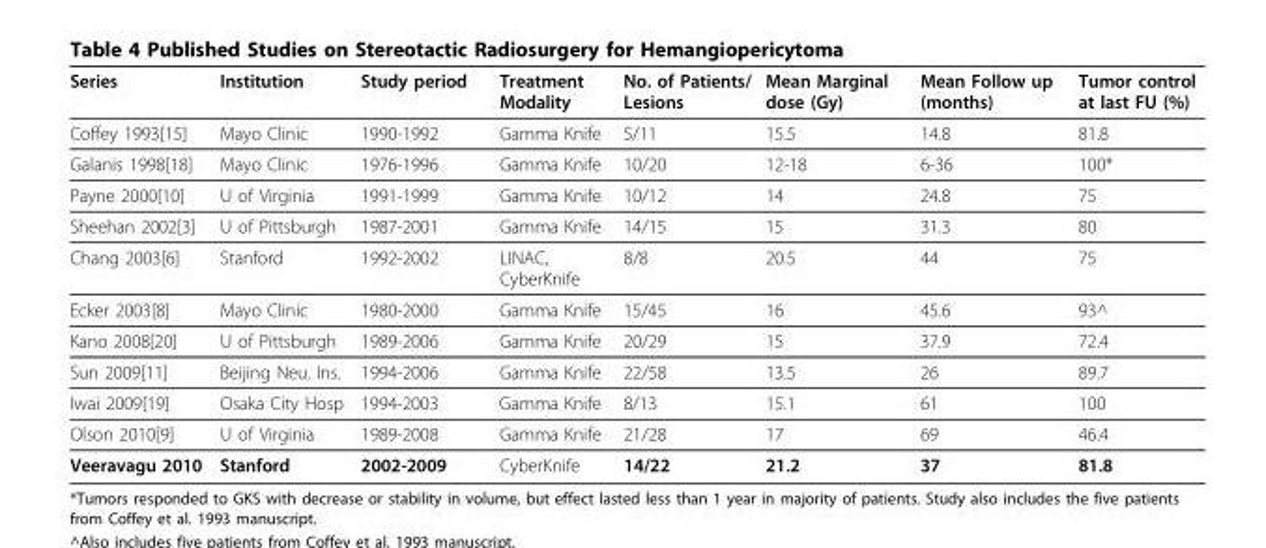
<table><thead><tr><td>Series</td><td>Institution</td><td>Study period</td><td>Treatment Modality</td><td>No. of Patients/ Lesions</td><td>Mean Marginal dose (Gy)</td><td>Mean Follow up (months)</td><td>Tumor control at last FU (%)</td></tr></thead><tbody><tr><td>Coffey 1993[15]</td><td>Mayo Clinic</td><td>1990-1992</td><td>Gamma Knife</td><td>5/11</td><td>15.5</td><td>14.8</td><td>81.8</td></tr><tr><td>Galanis 1998[18]</td><td>Mayo Clinic</td><td>1976-1996</td><td>Gamma Knife</td><td>10/20</td><td>12-18</td><td>6-36</td><td>100*</td></tr><tr><td>Payne 2000[10]</td><td>U of Virginia</td><td>1991-1999</td><td>Gamma Knife</td><td>10/12</td><td>14</td><td>24.8</td><td>75</td></tr><tr><td>Sheehan 2002[3]</td><td>U of Pittsburgh</td><td>1987-2001</td><td>Gamma Knife</td><td>14/15</td><td>15</td><td>31.3</td><td>80</td></tr><tr><td>Chang 2003[6]</td><td>Stanford</td><td>1992-2002</td><td>LINAC, CyberKnife</td><td>8/8</td><td>20.5</td><td>44</td><td>75</td></tr><tr><td>Ecker 2003[8]</td><td>Mayo Clinic</td><td>1980-2000</td><td>Gamma Knife</td><td>15/45</td><td>16</td><td>45.6</td><td>93^</td></tr><tr><td>Kano 2008[20]</td><td>U of Pittsburgh</td><td>1989-2006</td><td>Gamma Knife</td><td>20/29</td><td>15</td><td>37.9</td><td>72.4</td></tr><tr><td>Sun 2009[11]</td><td>Beijing Neu. Ins.</td><td>1994-2006</td><td>Gamma Knife</td><td>22/58</td><td>13.5</td><td>26</td><td>89.7</td></tr><tr><td>Iwai 2009[19]</td><td>Osaka City Hosp</td><td>1994-2003</td><td>Gamma Knife</td><td>8/13</td><td>15.1</td><td>61</td><td>100</td></tr><tr><td>Olson 2010[9]</td><td>U of Virginia</td><td>1989-2008</td><td>Gamma Knife</td><td>21/28</td><td>17</td><td>69</td><td>46.4</td></tr><tr><td>Veeravagu 2010</td><td>Stanford</td><td>2002-2009</td><td>CyberKnife</td><td>14/22</td><td>21.2</td><td>37</td><td>81.8</td></tr></tbody></table>